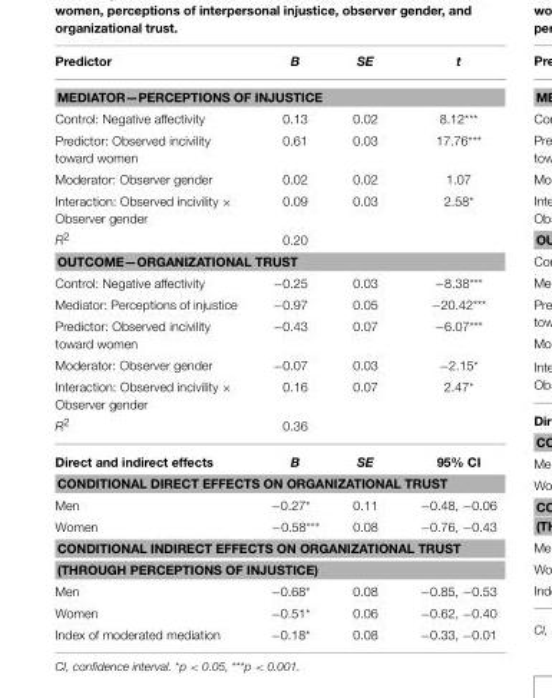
<table><thead><tr><td>Predictor</td><td>B</td><td>SE</td><td>t</td></tr></thead><tbody><tr><td colspan="4">MEDIATOR—PERCEPTIONS OF INJUSTICE</td></tr><tr><td>Control: Negative affectivity</td><td>0.13</td><td>0.02</td><td>8.12***</td></tr><tr><td>Predictor: Observed incivility toward women</td><td>0.61</td><td>0.03</td><td>17.76***</td></tr><tr><td>Moderator: Observer gender</td><td>0.02</td><td>0.02</td><td>1.07</td></tr><tr><td>Interaction: Observed incivility × Observer gender</td><td>0.09</td><td>0.03</td><td>2.58*</td></tr><tr><td>R<sup>2</sup></td><td>0.20</td><td></td><td></td></tr><tr><td colspan="4">OUTCOME—ORGANIZATIONAL TRUST</td></tr><tr><td>Control: Negative affectivity</td><td>−0.25</td><td>0.03</td><td>−8.38***</td></tr><tr><td>Mediator: Perceptions of injustice</td><td>−0.97</td><td>0.05</td><td>−20.42***</td></tr><tr><td>Predictor: Observed incivility toward women</td><td>−0.43</td><td>0.07</td><td>−6.07***</td></tr><tr><td>Moderator: Observer gender</td><td>−0.07</td><td>0.03</td><td>−2.15*</td></tr><tr><td>Interaction: Observed incivility × Observer gender</td><td>0.16</td><td>0.07</td><td>2.47*</td></tr><tr><td>R<sup>2</sup></td><td>0.36</td><td></td><td></td></tr><tr><td>Direct and indirect effects</td><td>B</td><td>SE</td><td>95% CI</td></tr><tr><td colspan="4">CONDITIONAL DIRECT EFFECTS ON ORGANIZATIONAL TRUST</td></tr><tr><td>Men</td><td>−0.27*</td><td>0.11</td><td>−0.48, −0.06</td></tr><tr><td>Women</td><td>−0.58***</td><td>0.08</td><td>−0.76, −0.43</td></tr><tr><td colspan="4">CONDITIONAL INDIRECT EFFECTS ON ORGANIZATIONAL TRUST</td></tr><tr><td colspan="4">(THROUGH PERCEPTIONS OF INJUSTICE)</td></tr><tr><td>Men</td><td>−0.68*</td><td>0.08</td><td>−0.85, −0.53</td></tr><tr><td>Women</td><td>−0.51*</td><td>0.06</td><td>−0.62, −0.40</td></tr><tr><td>Index of moderated mediation</td><td>−0.18*</td><td>0.08</td><td>−0.33, −0.01</td></tr></tbody></table>